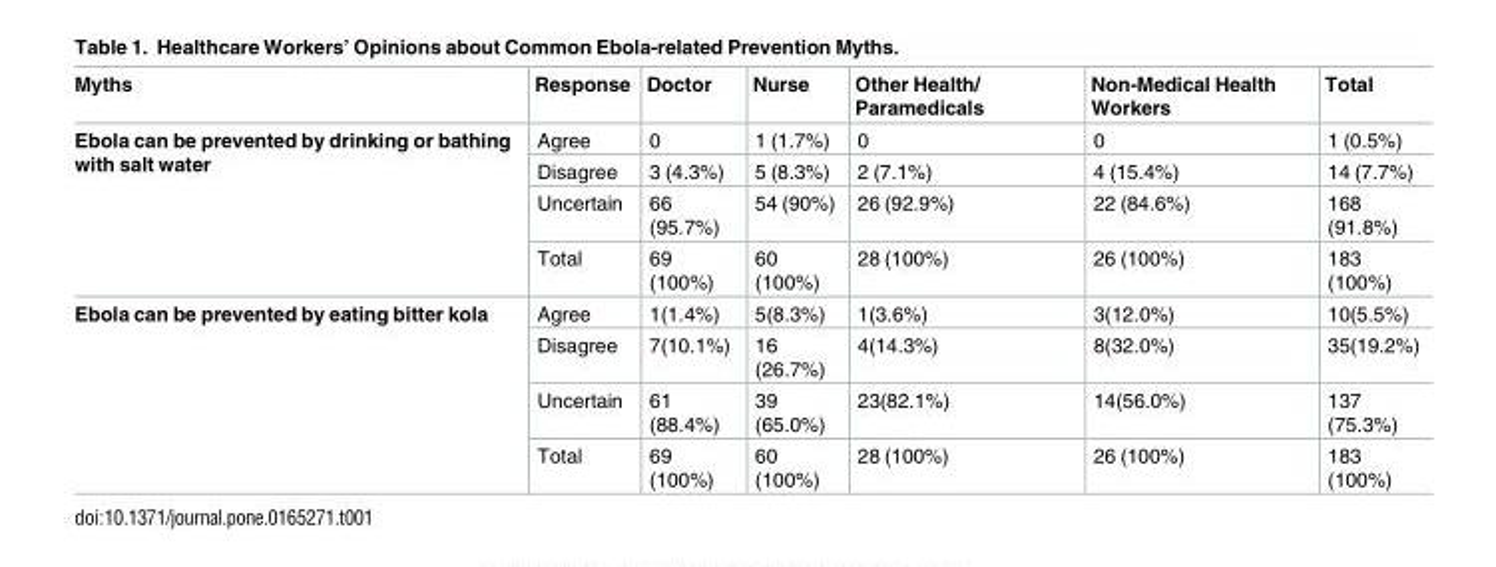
<table><thead><tr><td>Myths</td><td>Response</td><td>Doctor</td><td>Nurse</td><td>Other Health/ Paramedicals</td><td>Non-Medical Health Workers</td><td>Total</td></tr></thead><tbody><tr><td rowspan="4">Ebola can be prevented by drinking or bathing with salt water</td><td>Agree</td><td>0</td><td>1 (1.7%)</td><td>0</td><td>0</td><td>1 (0.5%)</td></tr><tr><td>Disagree</td><td>3 (4.3%)</td><td>5 (8.3%)</td><td>2 (7.1%)</td><td>4 (15.4%)</td><td>14 (7.7%)</td></tr><tr><td>Uncertain</td><td>66 (95.7%)</td><td>54 (90%)</td><td>26 (92.9%)</td><td>22 (84.6%)</td><td>168 (91.8%)</td></tr><tr><td>Total</td><td>69 (100%)</td><td>60 (100%)</td><td>28 (100%)</td><td>26 (100%)</td><td>183 (100%)</td></tr><tr><td rowspan="4">Ebola can be prevented by eating bitter kola</td><td>Agree</td><td>1(1.4%)</td><td>5(8.3%)</td><td>1(3.6%)</td><td>3(12.0%)</td><td>10(5.5%)</td></tr><tr><td>Disagree</td><td>7(10.1%)</td><td>16 (26.7%)</td><td>4(14.3%)</td><td>8(32.0%)</td><td>35(19.2%)</td></tr><tr><td>Uncertain</td><td>61 (88.4%)</td><td>39 (65.0%)</td><td>23(82.1%)</td><td>14(56.0%)</td><td>137 (75.3%)</td></tr><tr><td>Total</td><td>69 (100%)</td><td>60 (100%)</td><td>28 (100%)</td><td>26 (100%)</td><td>183 (100%)</td></tr></tbody></table>